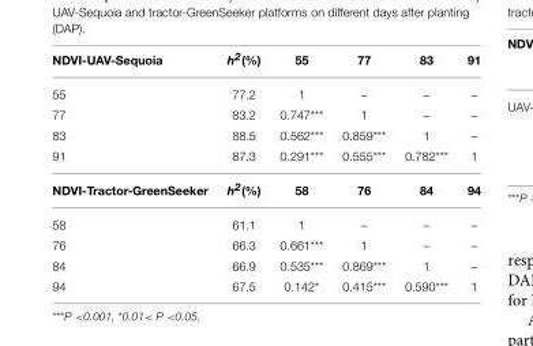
<table><thead><tr><td>NDVI-UAV-Sequoia</td><td>h2(%)</td><td>55</td><td>77</td><td>83</td><td>91</td></tr></thead><tbody><tr><td>55</td><td>77.2</td><td>1</td><td>–</td><td>–</td><td>–</td></tr><tr><td>77</td><td>83.2</td><td>0.747***</td><td>1</td><td>–</td><td>–</td></tr><tr><td>83</td><td>88.5</td><td>0.562***</td><td>0.859***</td><td>1</td><td>–</td></tr><tr><td>91</td><td>87.3</td><td>0.291***</td><td>0.555***</td><td>0.782***</td><td>1</td></tr><tr><td>NDVI-Tractor-GreenSeeker</td><td>h<sup>2</sup>(%)</td><td>58</td><td>76</td><td>84</td><td>94</td></tr><tr><td>58</td><td>61.1</td><td>1</td><td>–</td><td>–</td><td>–</td></tr><tr><td>76</td><td>66.3</td><td>0.661***</td><td>1</td><td>–</td><td>–</td></tr><tr><td>84</td><td>66.9</td><td>0.535***</td><td>0.869***</td><td>1</td><td>–</td></tr><tr><td>94</td><td>67.5</td><td>0.142*</td><td>0.415***</td><td>0.590***</td><td>1</td></tr></tbody></table>